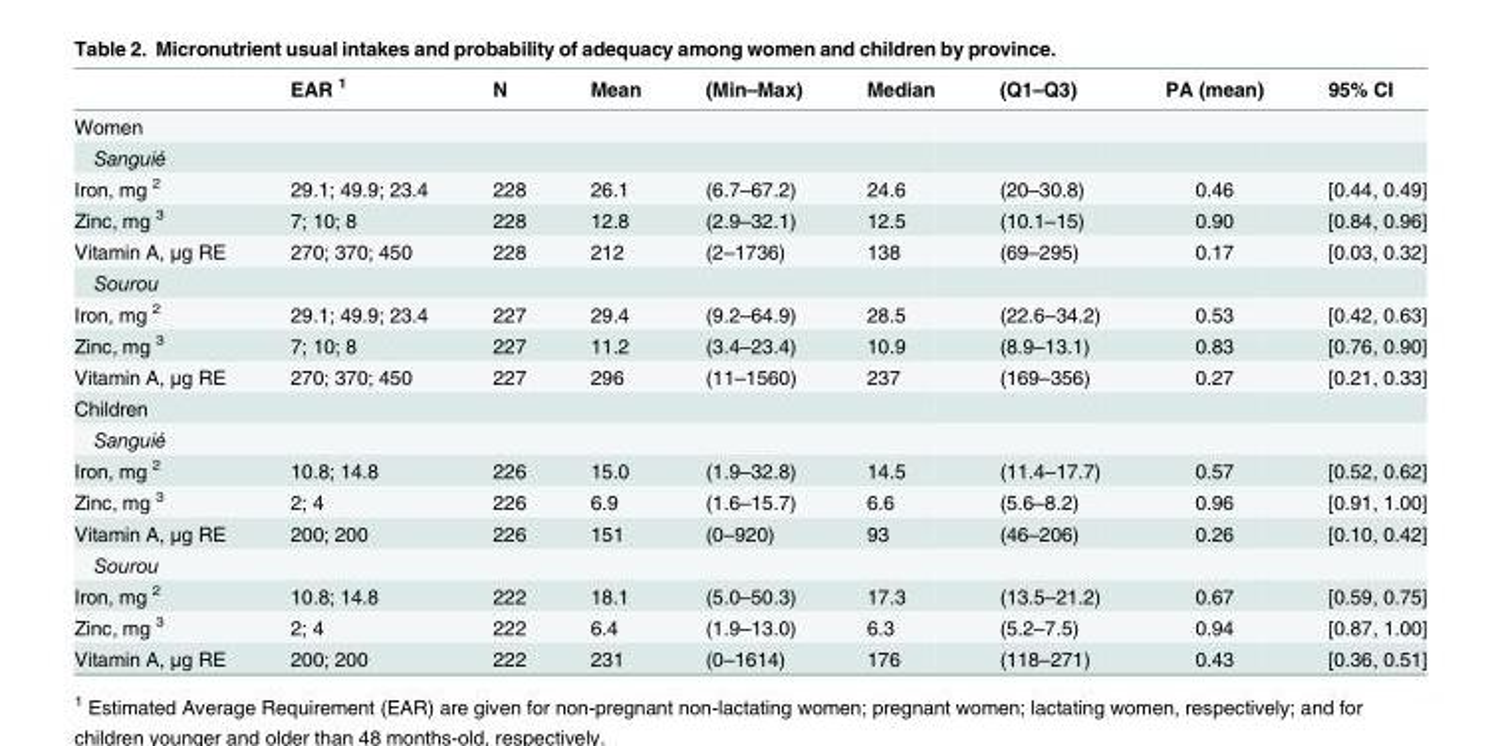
<table><thead><tr><td></td><td>EAR <sup>1</sup></td><td>N</td><td>Mean</td><td>(Min–Max)</td><td>Median</td><td>(Q1–Q3)</td><td>PA (mean)</td><td>95% CI</td></tr></thead><tbody><tr><td colspan="9">Women</td></tr><tr><td colspan="9">Sanguié</td></tr><tr><td>Iron, mg <sup>2</sup></td><td>29.1; 49.9; 23.4</td><td>228</td><td>26.1</td><td>(6.7–67.2)</td><td>24.6</td><td>(20–30.8)</td><td>0.46</td><td>[0.44, 0.49]</td></tr><tr><td>Zinc, mg <sup>3</sup></td><td>7; 10; 8</td><td>228</td><td>12.8</td><td>(2.9–32.1)</td><td>12.5</td><td>(10.1–15)</td><td>0.90</td><td>[0.84, 0.96]</td></tr><tr><td>Vitamin A, μg RE</td><td>270; 370; 450</td><td>228</td><td>212</td><td>(2–1736)</td><td>138</td><td>(69–295)</td><td>0.17</td><td>[0.03, 0.32]</td></tr><tr><td colspan="9">Sourou</td></tr><tr><td>Iron, mg <sup>2</sup></td><td>29.1; 49.9; 23.4</td><td>227</td><td>29.4</td><td>(9.2–64.9)</td><td>28.5</td><td>(22.6–34.2)</td><td>0.53</td><td>[0.42, 0.63]</td></tr><tr><td>Zinc, mg <sup>3</sup></td><td>7; 10; 8</td><td>227</td><td>11.2</td><td>(3.4–23.4)</td><td>10.9</td><td>(8.9–13.1)</td><td>0.83</td><td>[0.76, 0.90]</td></tr><tr><td>Vitamin A, μg RE</td><td>270; 370; 450</td><td>227</td><td>296</td><td>(11–1560)</td><td>237</td><td>(169–356)</td><td>0.27</td><td>[0.21, 0.33]</td></tr><tr><td colspan="9">Children</td></tr><tr><td colspan="9">Sanguié</td></tr><tr><td>Iron, mg <sup>2</sup></td><td>10.8; 14.8</td><td>226</td><td>15.0</td><td>(1.9–32.8)</td><td>14.5</td><td>(11.4–17.7)</td><td>0.57</td><td>[0.52, 0.62]</td></tr><tr><td>Zinc, mg <sup>3</sup></td><td>2; 4</td><td>226</td><td>6.9</td><td>(1.6–15.7)</td><td>6.6</td><td>(5.6–8.2)</td><td>0.96</td><td>[0.91, 1.00]</td></tr><tr><td>Vitamin A, μg RE</td><td>200; 200</td><td>226</td><td>151</td><td>(0–920)</td><td>93</td><td>(46–206)</td><td>0.26</td><td>[0.10, 0.42]</td></tr><tr><td colspan="9">Sourou</td></tr><tr><td>Iron, mg <sup>2</sup></td><td>10.8; 14.8</td><td>222</td><td>18.1</td><td>(5.0–50.3)</td><td>17.3</td><td>(13.5–21.2)</td><td>0.67</td><td>[0.59, 0.75]</td></tr><tr><td>Zinc, mg <sup>3</sup></td><td>2; 4</td><td>222</td><td>6.4</td><td>(1.9–13.0)</td><td>6.3</td><td>(5.2–7.5)</td><td>0.94</td><td>[0.87, 1.00]</td></tr><tr><td>Vitamin A, μg RE</td><td>200; 200</td><td>222</td><td>231</td><td>(0–1614)</td><td>176</td><td>(118–271)</td><td>0.43</td><td>[0.36, 0.51]</td></tr></tbody></table>